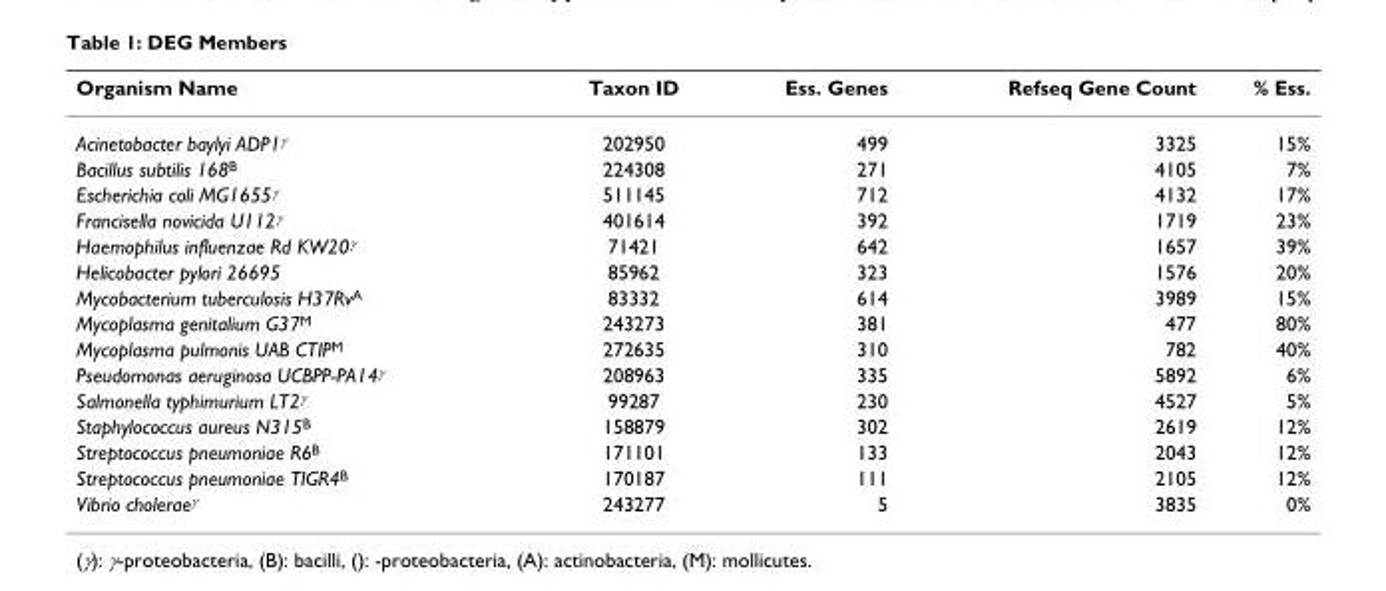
<table><thead><tr><td>Organism Name</td><td>Taxon ID</td><td>Ess. Genes</td><td>Refseq Gene Count</td><td>% Ess.</td></tr></thead><tbody><tr><td>Acinetobacter baylyi ADP1<sup>γ</sup></td><td>202950</td><td>499</td><td>3325</td><td>15%</td></tr><tr><td>Bacillus subtilis 168<sup>B</sup></td><td>224308</td><td>271</td><td>4105</td><td>7%</td></tr><tr><td>Escherichia coli MG1655<sup>γ</sup></td><td>511145</td><td>712</td><td>4132</td><td>17%</td></tr><tr><td>Francisella novicida U112<sup>γ</sup></td><td>401614</td><td>392</td><td>1719</td><td>23%</td></tr><tr><td>Haemophilus influenzae Rd KW20<sup>γ</sup></td><td>71421</td><td>642</td><td>1657</td><td>39%</td></tr><tr><td>Helicobacter pylori 26695</td><td>85962</td><td>323</td><td>1576</td><td>20%</td></tr><tr><td>Mycobacterium tuberculosis H37Rv<sup>A</sup></td><td>83332</td><td>614</td><td>3989</td><td>15%</td></tr><tr><td>Mycoplasma genitalium G37<sup>M</sup></td><td>243273</td><td>381</td><td>477</td><td>80%</td></tr><tr><td>Mycoplasma pulmonis UAB CTIP<sup>M</sup></td><td>272635</td><td>310</td><td>782</td><td>40%</td></tr><tr><td>Pseudomonas aeruginosa UCBPP-PA14<sup>γ</sup></td><td>208963</td><td>335</td><td>5892</td><td>6%</td></tr><tr><td>Salmonella typhimurium LT2<sup>γ</sup></td><td>99287</td><td>230</td><td>4527</td><td>5%</td></tr><tr><td>Staphylococcus aureus N315<sup>B</sup></td><td>158879</td><td>302</td><td>2619</td><td>12%</td></tr><tr><td>Streptococcus pneumoniae R6<sup>B</sup></td><td>171101</td><td>133</td><td>2043</td><td>12%</td></tr><tr><td>Streptococcus pneumoniae TIGR4<sup>B</sup></td><td>170187</td><td>111</td><td>2105</td><td>12%</td></tr><tr><td>Vibrio cholerae<sup>γ</sup></td><td>243277</td><td>5</td><td>3835</td><td>0%</td></tr></tbody></table>